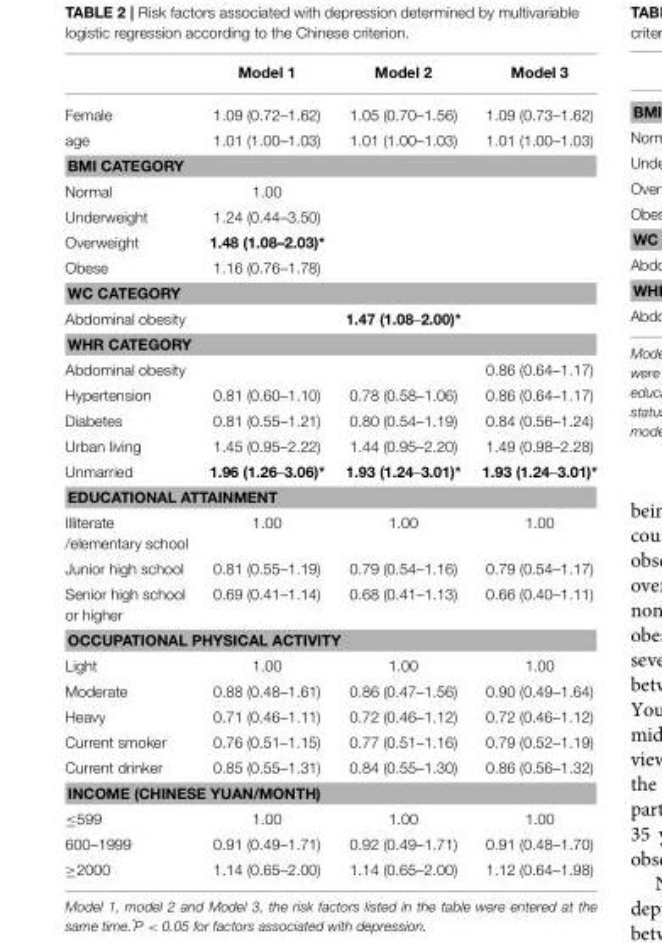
<table><thead><tr><td></td><td>Model 1</td><td>Model 2</td><td>Model 3</td></tr></thead><tbody><tr><td>Female</td><td>1.09 (0.72–1.62)</td><td>1.05 (0.70–1.56)</td><td>1.09 (0.73–1.62)</td></tr><tr><td>age</td><td>1.01 (1.00–1.03)</td><td>1.01 (1.00–1.03)</td><td>1.01 (1.00–1.03)</td></tr><tr><td colspan="4">BMI CATEGORY</td></tr><tr><td>Normal</td><td>1.00</td><td></td><td></td></tr><tr><td>Underweight</td><td>1.24 (0.44–3.50)</td><td></td><td></td></tr><tr><td>Overweight</td><td>1.48 (1.08–2.03)*</td><td></td><td></td></tr><tr><td>Obese</td><td>1.16 (0.76–1.78)</td><td></td><td></td></tr><tr><td colspan="4">WC CATEGORY</td></tr><tr><td>Abdominal obesity</td><td></td><td>1.47 (1.08–2.00)*</td><td></td></tr><tr><td colspan="4">WHR CATEGORY</td></tr><tr><td>Abdominal obesity</td><td></td><td></td><td>0.86 (0.64–1.17)</td></tr><tr><td>Hypertension</td><td>0.81 (0.60–1.10)</td><td>0.78 (0.58–1.06)</td><td>0.86 (0.64–1.17)</td></tr><tr><td>Diabetes</td><td>0.81 (0.55–1.21)</td><td>0.80 (0.54–1.19)</td><td>0.84 (0.56–1.24)</td></tr><tr><td>Urban living</td><td>1.45 (0.95–2.22)</td><td>1.44 (0.95–2.20)</td><td>1.49 (0.98–2.28)</td></tr><tr><td>Unmarried</td><td>1.96 (1.26–3.06)*</td><td>1.93 (1.24–3.01)*</td><td>1.93 (1.24–3.01)*</td></tr><tr><td colspan="4">EDUCATIONAL ATTAINMENT</td></tr><tr><td>Illiterate /elementary school</td><td>1.00</td><td>1.00</td><td>1.00</td></tr><tr><td>Junior high school</td><td>0.81 (0.55–1.19)</td><td>0.79 (0.54–1.16)</td><td>0.79 (0.54–1.17)</td></tr><tr><td>Senior high school or higher</td><td>0.69 (0.41–1.14)</td><td>0.68 (0.41–1.13)</td><td>0.66 (0.40–1.11)</td></tr><tr><td colspan="4">OCCUPATIONAL PHYSICAL ACTIVITY</td></tr><tr><td>Light</td><td>1.00</td><td>1.00</td><td>1.00</td></tr><tr><td>Moderate</td><td>0.88 (0.48–1.61)</td><td>0.86 (0.47–1.56)</td><td>0.90 (0.49–1.64)</td></tr><tr><td>Heavy</td><td>0.71 (0.46–1.11)</td><td>0.72 (0.46–1.12)</td><td>0.72 (0.46–1.12)</td></tr><tr><td>Current smoker</td><td>0.76 (0.51–1.15)</td><td>0.77 (0.51–1.16)</td><td>0.79 (0.52–1.19)</td></tr><tr><td>Current drinker</td><td>0.85 (0.55–1.31)</td><td>0.84 (0.55–1.30)</td><td>0.86 (0.56–1.32)</td></tr><tr><td colspan="4">INCOME (CHINESE YUAN/MONTH)</td></tr><tr><td>≤599</td><td>1.00</td><td>1.00</td><td>1.00</td></tr><tr><td>600–1999</td><td>0.91 (0.49–1.71)</td><td>0.92 (0.49–1.71)</td><td>0.91 (0.48–1.70)</td></tr><tr><td>≥2000</td><td>1.14 (0.65–2.00)</td><td>1.14 (0.65–2.00)</td><td>1.12 (0.64–1.98)</td></tr></tbody></table>